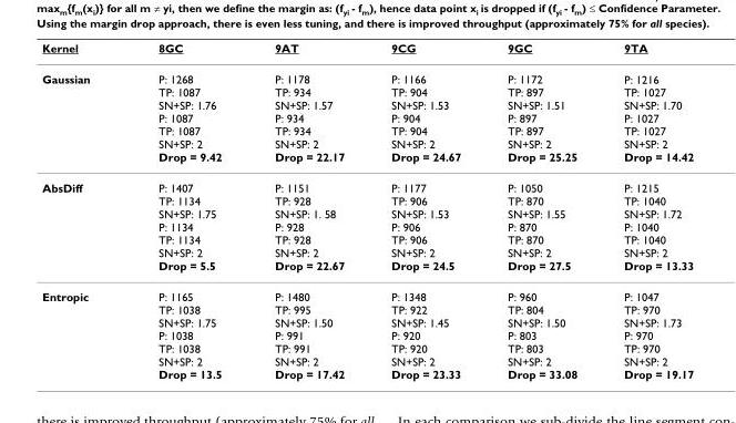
<table><thead><tr><td>Kernel</td><td>8GC</td><td>9AT</td><td>9CG</td><td>9GC</td><td>9TA</td></tr></thead><tbody><tr><td>Gaussian</td><td>P: 1268 TP: 1087 SN+SP: 1.76 P: 1087 TP: 1087 SN+SP: 2 Drop = 9.42</td><td>P: 1178 TP: 934 SN+SP: 1.57 P: 934 TP: 934 SN+SP: 2 Drop = 22.17</td><td>P: 1166 TP: 904 SN+SP: 1.53 P: 904 TP: 904 SN+SP: 2 Drop = 24.67</td><td>P: 1172 TP: 897 SN+SP: 1.51 P: 897 TP: 897 SN+SP: 2 Drop = 25.25</td><td>P: 1216 TP: 1027 SN+SP: 1.70 P: 1027 TP: 1027 SN+SP: 2 Drop = 14.42</td></tr><tr><td>AbsDiff</td><td>P: 1407 TP: 1134 SN+SP: 1.75 P: 1134 TP: 1134 SN+SP: 2 Drop = 5.5</td><td>P: 1151 TP: 928 SN+SP: 1. 58 P: 928 TP: 928 SN+SP: 2 Drop = 22.67</td><td>P: 1177 TP: 906 SN+SP: 1.53 P: 906 TP: 906 SN+SP: 2 Drop = 24.5</td><td>P: 1050 TP: 870 SN+SP: 1.55 P: 870 TP: 870 SN+SP: 2 Drop = 27.5</td><td>P: 1215 TP: 1040 SN+SP: 1.72 P: 1040 TP: 1040 SN+SP: 2 Drop = 13.33</td></tr><tr><td>Entropic</td><td>P: 1165 TP: 1038 SN+SP: 1.75 P: 1038 TP: 1038 SN+SP: 2 Drop = 13.5</td><td>P: 1480 TP: 995 SN+SP: 1.50 P: 991 TP: 991 SN+SP: 2 Drop = 17.42</td><td>P: 1348 TP: 922 SN+SP: 1.45 P: 920 TP: 920 SN+SP: 2 Drop = 23.33</td><td>P: 960 TP: 804 SN+SP: 1.50 P: 803 TP: 803 SN+SP: 2 Drop = 33.08</td><td>P: 1047 TP: 970 SN+SP: 1.73 P: 970 TP: 970 SN+SP: 2 Drop = 19.17</td></tr></tbody></table>